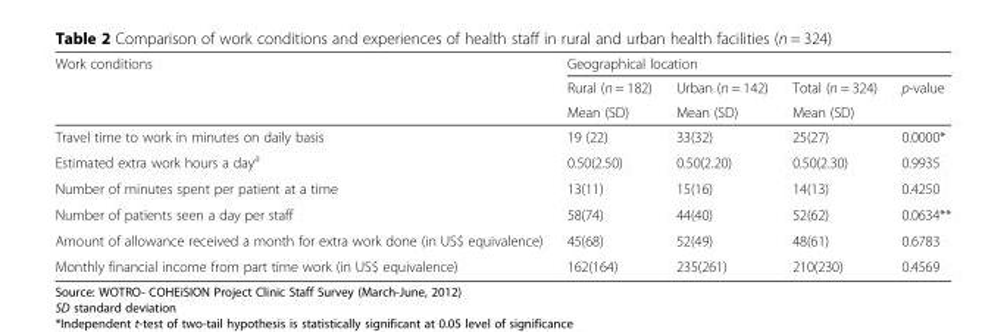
<table><thead><tr><td rowspan="3">Work conditions</td><td colspan="4">Geographical location</td></tr><tr><td rowspan="2">Rural (n = 182) Mean (SD)</td><td rowspan="2">Urban (n = 142) Mean (SD)</td><td rowspan="2">Total (n = 324) Mean (SD)</td><td rowspan="2">p-value</td></tr><tr></tr></thead><tbody><tr><td>Travel time to work in minutes on daily basis</td><td>19 (22)</td><td>33(32)</td><td>25(27)</td><td>0.0000*</td></tr><tr><td>Estimated extra work hours a day<sup>a</sup></td><td>0.50(2.50)</td><td>0.50(2.20)</td><td>0.50(2.30)</td><td>0.9935</td></tr><tr><td>Number of minutes spent per patient at a time</td><td>13(11)</td><td>15(16)</td><td>14(13)</td><td>0.4250</td></tr><tr><td>Number of patients seen a day per staff</td><td>58(74)</td><td>44(40)</td><td>52(62)</td><td>0.0634**</td></tr><tr><td>Amount of allowance received a month for extra work done (in US$ equivalence)</td><td>45(68)</td><td>52(49)</td><td>48(61)</td><td>0.6783</td></tr><tr><td>Monthly financial income from part time work (in US$ equivalence)</td><td>162(164)</td><td>235(261)</td><td>210(230)</td><td>0.4569</td></tr></tbody></table>